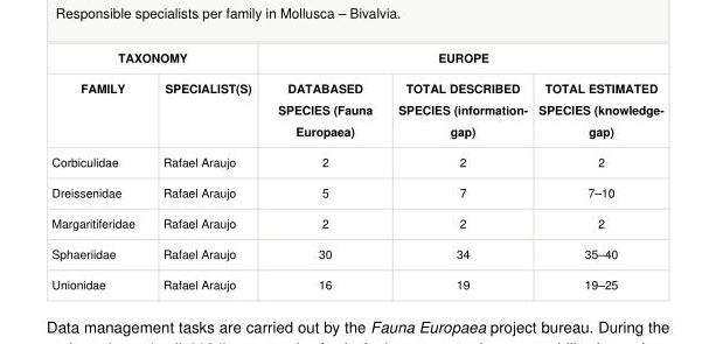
<table><tbody><tr><td colspan="2">TAXONOMY</td><td colspan="3">EUROPE</td></tr><tr><td>FAMILY</td><td>SPECIALIST(S)</td><td>DATABASED SPECIES (Fauna Europaea)</td><td>TOTAL DESCRIBED SPECIES (information- gap)</td><td>TOTAL ESTIMATED SPECIES (knowledge- gap)</td></tr><tr><td>Corbiculidae</td><td>Rafael Araujo</td><td>2</td><td>2</td><td>2</td></tr><tr><td>Dreissenidae</td><td>Rafael Araujo</td><td>5</td><td>7</td><td>7–10</td></tr><tr><td>Margaritiferidae</td><td>Rafael Araujo</td><td>2</td><td>2</td><td>2</td></tr><tr><td>Sphaeriidae</td><td>Rafael Araujo</td><td>30</td><td>34</td><td>35–40</td></tr><tr><td>Unionidae</td><td>Rafael Araujo</td><td>16</td><td>19</td><td>19–25</td></tr></tbody></table>